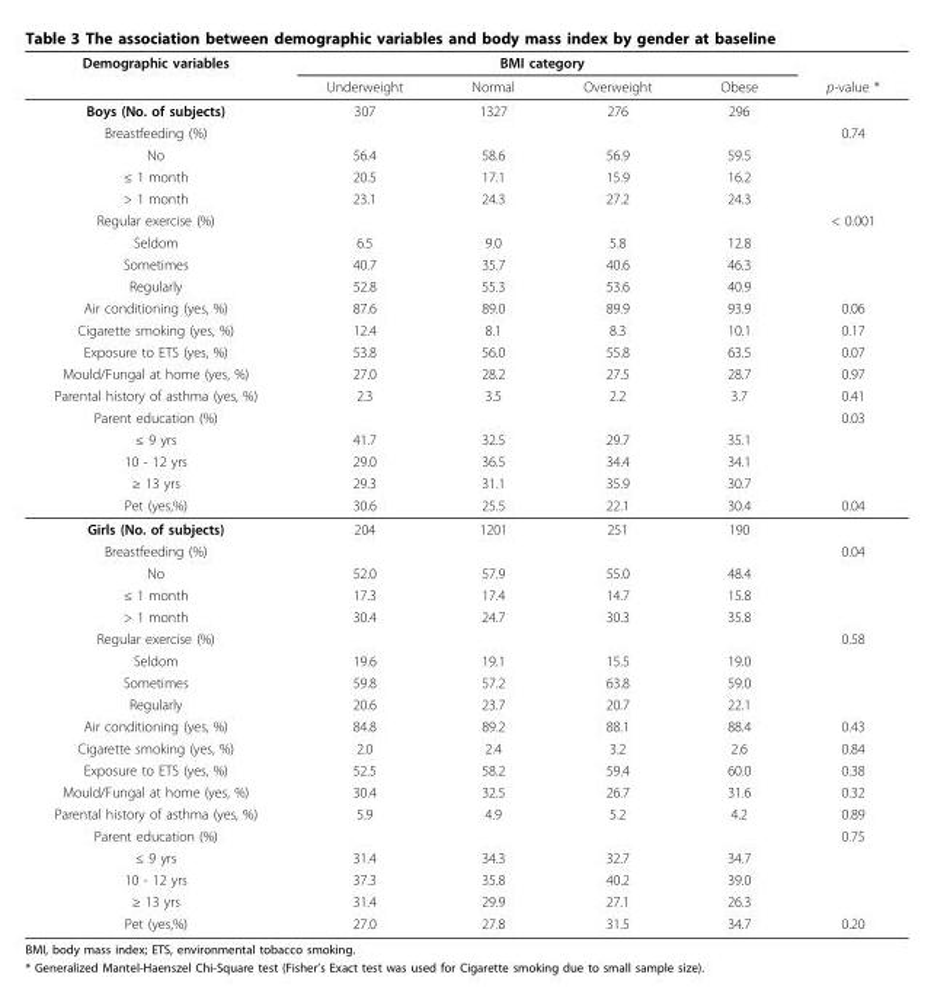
<table><thead><tr><td rowspan="2">Demographic variables</td><td colspan="4">BMI category</td><td rowspan="2">p-value *</td></tr><tr><td>Underweight</td><td>Normal</td><td>Overweight</td><td>Obese</td></tr></thead><tbody><tr><td>Boys (No. of subjects)</td><td>307</td><td>1327</td><td>276</td><td>296</td><td></td></tr><tr><td>Breastfeeding (%)</td><td></td><td></td><td></td><td></td><td>0.74</td></tr><tr><td>No</td><td>56.4</td><td>58.6</td><td>56.9</td><td>59.5</td><td></td></tr><tr><td>≤ 1 month</td><td>20.5</td><td>17.1</td><td>15.9</td><td>16.2</td><td></td></tr><tr><td>&gt; 1 month</td><td>23.1</td><td>24.3</td><td>27.2</td><td>24.3</td><td></td></tr><tr><td>Regular exercise (%)</td><td></td><td></td><td></td><td></td><td>&lt; 0.001</td></tr><tr><td>Seldom</td><td>6.5</td><td>9.0</td><td>5.8</td><td>12.8</td><td></td></tr><tr><td>Sometimes</td><td>40.7</td><td>35.7</td><td>40.6</td><td>46.3</td><td></td></tr><tr><td>Regularly</td><td>52.8</td><td>55.3</td><td>53.6</td><td>40.9</td><td></td></tr><tr><td>Air conditioning (yes, %)</td><td>87.6</td><td>89.0</td><td>89.9</td><td>93.9</td><td>0.06</td></tr><tr><td>Cigarette smoking (yes, %)</td><td>12.4</td><td>8.1</td><td>8.3</td><td>10.1</td><td>0.17</td></tr><tr><td>Exposure to ETS (yes, %)</td><td>53.8</td><td>56.0</td><td>55.8</td><td>63.5</td><td>0.07</td></tr><tr><td>Mould/Fungal at home (yes, %)</td><td>27.0</td><td>28.2</td><td>27.5</td><td>28.7</td><td>0.97</td></tr><tr><td>Parental history of asthma (yes, %)</td><td>2.3</td><td>3.5</td><td>2.2</td><td>3.7</td><td>0.41</td></tr><tr><td>Parent education (%)</td><td></td><td></td><td></td><td></td><td>0.03</td></tr><tr><td>≤ 9 yrs</td><td>41.7</td><td>32.5</td><td>29.7</td><td>35.1</td><td></td></tr><tr><td>10 - 12 yrs</td><td>29.0</td><td>36.5</td><td>34.4</td><td>34.1</td><td></td></tr><tr><td>≥ 13 yrs</td><td>29.3</td><td>31.1</td><td>35.9</td><td>30.7</td><td></td></tr><tr><td>Pet (yes,%)</td><td>30.6</td><td>25.5</td><td>22.1</td><td>30.4</td><td>0.04</td></tr><tr><td>Girls (No. of subjects)</td><td>204</td><td>1201</td><td>251</td><td>190</td><td></td></tr><tr><td>Breastfeeding (%)</td><td></td><td></td><td></td><td></td><td>0.04</td></tr><tr><td>No</td><td>52.0</td><td>57.9</td><td>55.0</td><td>48.4</td><td></td></tr><tr><td>≤ 1 month</td><td>17.3</td><td>17.4</td><td>14.7</td><td>15.8</td><td></td></tr><tr><td>&gt; 1 month</td><td>30.4</td><td>24.7</td><td>30.3</td><td>35.8</td><td></td></tr><tr><td>Regular exercise (%)</td><td></td><td></td><td></td><td></td><td>0.58</td></tr><tr><td>Seldom</td><td>19.6</td><td>19.1</td><td>15.5</td><td>19.0</td><td></td></tr><tr><td>Sometimes</td><td>59.8</td><td>57.2</td><td>63.8</td><td>59.0</td><td></td></tr><tr><td>Regularly</td><td>20.6</td><td>23.7</td><td>20.7</td><td>22.1</td><td></td></tr><tr><td>Air conditioning (yes, %)</td><td>84.8</td><td>89.2</td><td>88.1</td><td>88.4</td><td>0.43</td></tr><tr><td>Cigarette smoking (yes, %)</td><td>2.0</td><td>2.4</td><td>3.2</td><td>2.6</td><td>0.84</td></tr><tr><td>Exposure to ETS (yes, %)</td><td>52.5</td><td>58.2</td><td>59.4</td><td>60.0</td><td>0.38</td></tr><tr><td>Mould/Fungal at home (yes, %)</td><td>30.4</td><td>32.5</td><td>26.7</td><td>31.6</td><td>0.32</td></tr><tr><td>Parental history of asthma (yes, %)</td><td>5.9</td><td>4.9</td><td>5.2</td><td>4.2</td><td>0.89</td></tr><tr><td>Parent education (%)</td><td></td><td></td><td></td><td></td><td>0.75</td></tr><tr><td>≤ 9 yrs</td><td>31.4</td><td>34.3</td><td>32.7</td><td>34.7</td><td></td></tr><tr><td>10 - 12 yrs</td><td>37.3</td><td>35.8</td><td>40.2</td><td>39.0</td><td></td></tr><tr><td>≥ 13 yrs</td><td>31.4</td><td>29.9</td><td>27.1</td><td>26.3</td><td></td></tr><tr><td>Pet (yes,%)</td><td>27.0</td><td>27.8</td><td>31.5</td><td>34.7</td><td>0.20</td></tr></tbody></table>